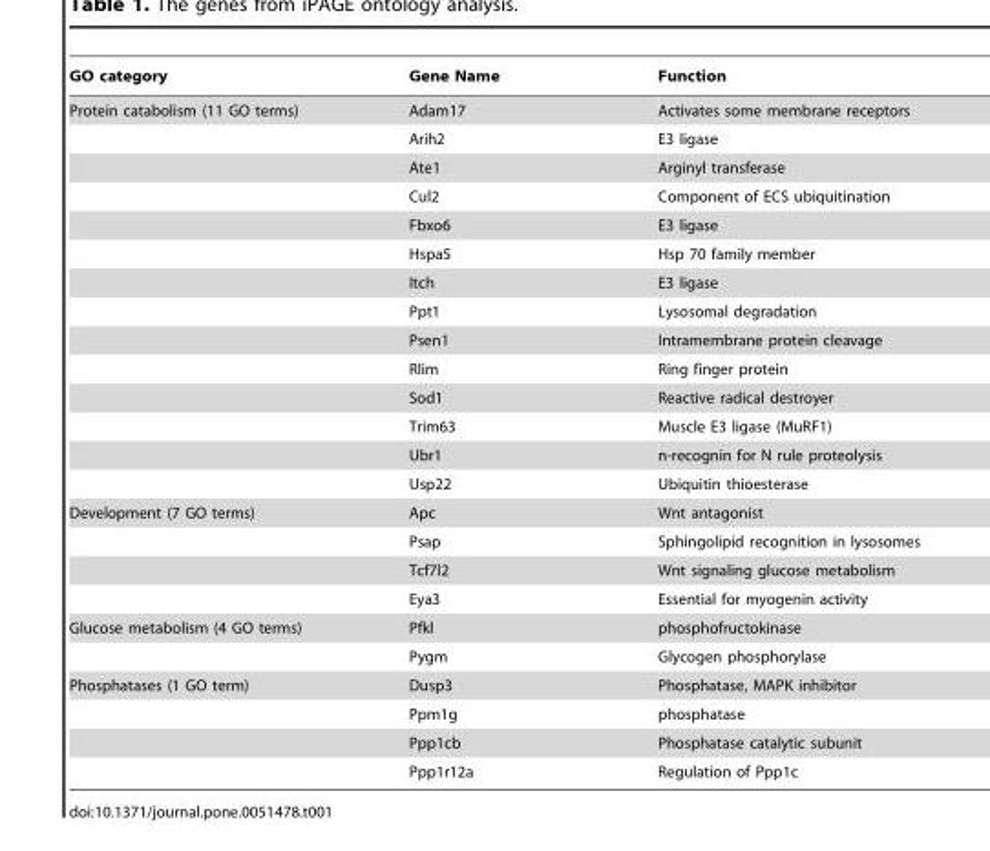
<table><thead><tr><td>GO category</td><td>Gene Name</td><td>Function</td></tr></thead><tbody><tr><td rowspan="14">Protein catabolism (11 GO terms)</td><td>Adam17</td><td>Activates some membrane receptors</td></tr><tr><td>Arih2</td><td>E3 ligase</td></tr><tr><td>Ate1</td><td>Arginyl transferase</td></tr><tr><td>Cul2</td><td>Component of ECS ubiquitination</td></tr><tr><td>Fbxo6</td><td>E3 ligase</td></tr><tr><td>Hspa5</td><td>Hsp 70 family member</td></tr><tr><td>Itch</td><td>E3 ligase</td></tr><tr><td>Ppt1</td><td>Lysosomal degradation</td></tr><tr><td>Psen1</td><td>Intramembrane protein cleavage</td></tr><tr><td>Rlim</td><td>Ring finger protein</td></tr><tr><td>Sod1</td><td>Reactive radical destroyer</td></tr><tr><td>Trim63</td><td>Muscle E3 ligase (MuRF1)</td></tr><tr><td>Ubr1</td><td>n-recognin for N rule proteolysis</td></tr><tr><td>Usp22</td><td>Ubiquitin thioesterase</td></tr><tr><td rowspan="4">Development (7 GO terms)</td><td>Apc</td><td>Wnt antagonist</td></tr><tr><td>Psap</td><td>Sphingolipid recognition in lysosomes</td></tr><tr><td>Tcf7l2</td><td>Wnt signaling glucose metabolism</td></tr><tr><td>Eya3</td><td>Essential for myogenin activity</td></tr><tr><td rowspan="2">Glucose metabolism (4 GO terms)</td><td>Pfkl</td><td>phosphofructokinase</td></tr><tr><td>Pygm</td><td>Glycogen phosphorylase</td></tr><tr><td rowspan="4">Phosphatases (1 GO term)</td><td>Dusp3</td><td>Phosphatase, MAPK inhibitor</td></tr><tr><td>Ppm1g</td><td>phosphatase</td></tr><tr><td>Ppp1cb</td><td>Phosphatase catalytic subunit</td></tr><tr><td>Ppp1r12a</td><td>Regulation of Ppp1c</td></tr></tbody></table>